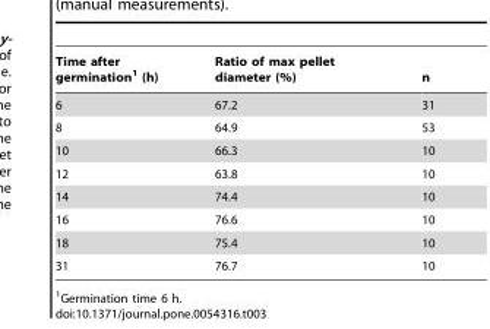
<table><thead><tr><td>Time after germination<sup>1</sup> (h)</td><td>Ratio of max pellet diameter (%)</td><td>n</td></tr></thead><tbody><tr><td>6</td><td>67.2</td><td>31</td></tr><tr><td>8</td><td>64.9</td><td>53</td></tr><tr><td>10</td><td>66.3</td><td>10</td></tr><tr><td>12</td><td>63.8</td><td>10</td></tr><tr><td>14</td><td>74.4</td><td>10</td></tr><tr><td>16</td><td>76.6</td><td>10</td></tr><tr><td>18</td><td>75.4</td><td>10</td></tr><tr><td>31</td><td>76.7</td><td>10</td></tr></tbody></table>